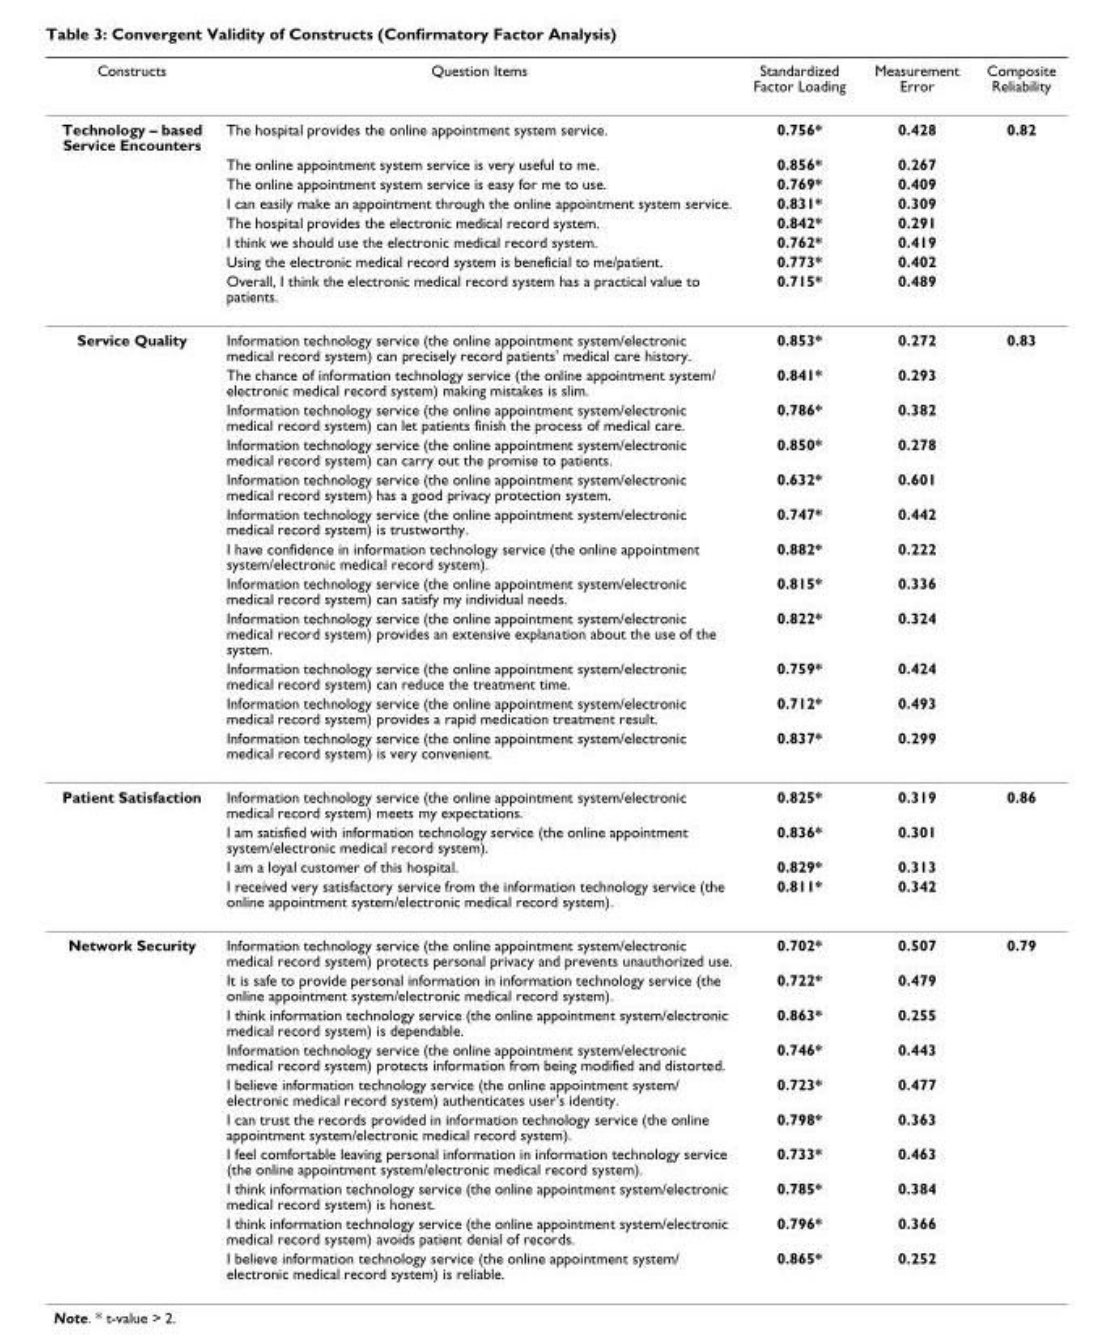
<table><thead><tr><td>Constructs</td><td>Question Items</td><td>Standardized Factor Loading</td><td>Measurement Error</td><td>Composite Reliability</td></tr></thead><tbody><tr><td rowspan="8">Technology – based Service Encounters</td><td>The hospital provides the online appointment system service.</td><td>0.756*</td><td>0.428</td><td>0.82</td></tr><tr><td>The online appointment system service is very useful to me.</td><td>0.856*</td><td>0.267</td><td></td></tr><tr><td>The online appointment system service is easy for me to use.</td><td>0.769*</td><td>0.409</td><td></td></tr><tr><td>I can easily make an appointment through the online appointment system service.</td><td>0.831*</td><td>0.309</td><td></td></tr><tr><td>The hospital provides the electronic medical record system.</td><td>0.842*</td><td>0.291</td><td></td></tr><tr><td>I think we should use the electronic medical record system.</td><td>0.762*</td><td>0.419</td><td></td></tr><tr><td>Using the electronic medical record system is beneficial to me/patient.</td><td>0.773*</td><td>0.402</td><td></td></tr><tr><td>Overall, I think the electronic medical record system has a practical value to patients.</td><td>0.715*</td><td>0.489</td><td></td></tr><tr><td rowspan="12">Service Quality</td><td>Information technology service (the online appointment system/electronic medical record system) can precisely record patients&#x27; medical care history.</td><td>0.853*</td><td>0.272</td><td>0.83</td></tr><tr><td>The chance of information technology service (the online appointment system/ electronic medical record system) making mistakes is slim.</td><td>0.841*</td><td>0.293</td><td></td></tr><tr><td>Information technology service (the online appointment system/electronic medical record system) can let patients finish the process of medical care.</td><td>0.786*</td><td>0.382</td><td></td></tr><tr><td>Information technology service (the online appointment system/electronic medical record system) can carry out the promise to patients.</td><td>0.850*</td><td>0.278</td><td></td></tr><tr><td>Information technology service (the online appointment system/electronic medical record system) has a good privacy protection system.</td><td>0.632*</td><td>0.601</td><td></td></tr><tr><td>Information technology service (the online appointment system/electronic medical record system) is trustworthy.</td><td>0.747*</td><td>0.442</td><td></td></tr><tr><td>I have confidence in information technology service (the online appointment system/electronic medical record system).</td><td>0.882*</td><td>0.222</td><td></td></tr><tr><td>Information technology service (the online appointment system/electronic medical record system) can satisfy my individual needs.</td><td>0.815*</td><td>0.336</td><td></td></tr><tr><td>Information technology service (the online appointment system/electronic medical record system) provides an extensive explanation about the use of the system.</td><td>0.822*</td><td>0.324</td><td></td></tr><tr><td>Information technology service (the online appointment system/electronic medical record system) can reduce the treatment time.</td><td>0.759*</td><td>0.424</td><td></td></tr><tr><td>Information technology service (the online appointment system/electronic medical record system) provides a rapid medication treatment result.</td><td>0.712*</td><td>0.493</td><td></td></tr><tr><td>Information technology service (the online appointment system/electronic medical record system) is very convenient.</td><td>0.837*</td><td>0.299</td><td></td></tr><tr><td rowspan="4">Patient Satisfaction</td><td>Information technology service (the online appointment system/electronic medical record system) meets my expectations.</td><td>0.825*</td><td>0.319</td><td>0.86</td></tr><tr><td>I am satisfied with information technology service (the online appointment system/electronic medical record system).</td><td>0.836*</td><td>0.301</td><td></td></tr><tr><td>I am a loyal customer of this hospital.</td><td>0.829*</td><td>0.313</td><td></td></tr><tr><td>I received very satisfactory service from the information technology service (the online appointment system/electronic medical record system).</td><td>0.811*</td><td>0.342</td><td></td></tr><tr><td rowspan="10">Network Security</td><td>Information technology service (the online appointment system/electronic medical record system) protects personal privacy and prevents unauthorized use.</td><td>0.702*</td><td>0.507</td><td>0.79</td></tr><tr><td>It is safe to provide personal information in information technology service (the online appointment system/electronic medical record system).</td><td>0.722*</td><td>0.479</td><td></td></tr><tr><td>I think information technology service (the online appointment system/electronic medical record system) is dependable.</td><td>0.863*</td><td>0.255</td><td></td></tr><tr><td>Information technology service (the online appointment system/electronic medical record system) protects information from being modified and distorted.</td><td>0.746*</td><td>0.443</td><td></td></tr><tr><td>I believe information technology service (the online appointment system/ electronic medical record system) authenticates user&#x27;s identity.</td><td>0.723*</td><td>0.477</td><td></td></tr><tr><td>I can trust the records provided in information technology service (the online appointment system/electronic medical record system).</td><td>0.798*</td><td>0.363</td><td></td></tr><tr><td>I feel comfortable leaving personal information in information technology service (the online appointment system/electronic medical record system).</td><td>0.733*</td><td>0.463</td><td></td></tr><tr><td>I think information technology service (the online appointment system/electronic medical record system) is honest.</td><td>0.785*</td><td>0.384</td><td></td></tr><tr><td>I think information technology service (the online appointment system/electronic medical record system) avoids patient denial of records.</td><td>0.796*</td><td>0.366</td><td></td></tr><tr><td>I believe information technology service (the online appointment system/ electronic medical record system) is reliable.</td><td>0.865*</td><td>0.252</td><td></td></tr></tbody></table>